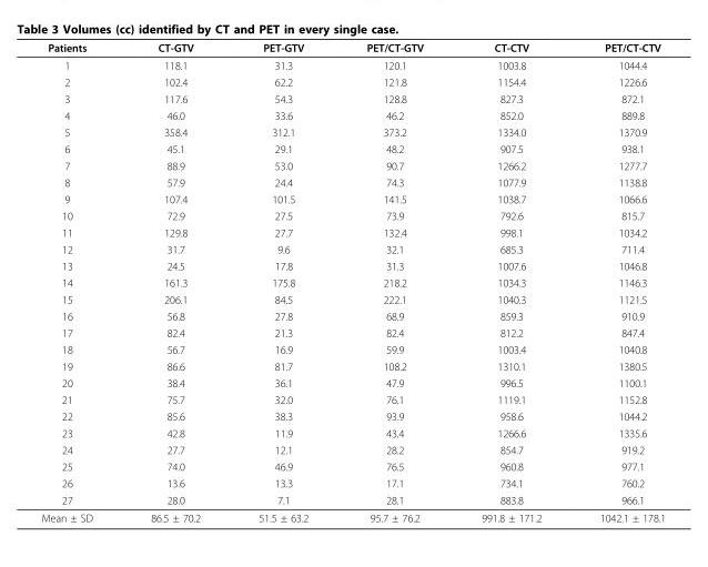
<table><thead><tr><td>Patients</td><td>CT-GTV</td><td>PET-GTV</td><td>PET/CT-GTV</td><td>CT-CTV</td><td>PET/CT-CTV</td></tr></thead><tbody><tr><td>1</td><td>118.1</td><td>31.3</td><td>120.1</td><td>1003.8</td><td>1044.4</td></tr><tr><td>2</td><td>102.4</td><td>62.2</td><td>121.8</td><td>1154.4</td><td>1226.6</td></tr><tr><td>3</td><td>117.6</td><td>54.3</td><td>128.8</td><td>827.3</td><td>872.1</td></tr><tr><td>4</td><td>46.0</td><td>33.6</td><td>46.2</td><td>852.0</td><td>889.8</td></tr><tr><td>5</td><td>358.4</td><td>312.1</td><td>373.2</td><td>1334.0</td><td>1370.9</td></tr><tr><td>6</td><td>45.1</td><td>29.1</td><td>48.2</td><td>907.5</td><td>938.1</td></tr><tr><td>7</td><td>88.9</td><td>53.0</td><td>90.7</td><td>1266.2</td><td>1277.7</td></tr><tr><td>8</td><td>57.9</td><td>24.4</td><td>74.3</td><td>1077.9</td><td>1138.8</td></tr><tr><td>9</td><td>107.4</td><td>101.5</td><td>141.5</td><td>1038.7</td><td>1066.6</td></tr><tr><td>10</td><td>72.9</td><td>27.5</td><td>73.9</td><td>792.6</td><td>815.7</td></tr><tr><td>11</td><td>129.8</td><td>27.7</td><td>132.4</td><td>998.1</td><td>1034.2</td></tr><tr><td>12</td><td>31.7</td><td>9.6</td><td>32.1</td><td>685.3</td><td>711.4</td></tr><tr><td>13</td><td>24.5</td><td>17.8</td><td>31.3</td><td>1007.6</td><td>1046.8</td></tr><tr><td>14</td><td>161.3</td><td>175.8</td><td>218.2</td><td>1034.3</td><td>1146.3</td></tr><tr><td>15</td><td>206.1</td><td>84.5</td><td>222.1</td><td>1040.3</td><td>1121.5</td></tr><tr><td>16</td><td>56.8</td><td>27.8</td><td>68.9</td><td>859.3</td><td>910.9</td></tr><tr><td>17</td><td>82.4</td><td>21.3</td><td>82.4</td><td>812.2</td><td>847.4</td></tr><tr><td>18</td><td>56.7</td><td>16.9</td><td>59.9</td><td>1003.4</td><td>1040.8</td></tr><tr><td>19</td><td>86.6</td><td>81.7</td><td>108.2</td><td>1310.1</td><td>1380.5</td></tr><tr><td>20</td><td>38.4</td><td>36.1</td><td>47.9</td><td>996.5</td><td>1100.1</td></tr><tr><td>21</td><td>75.7</td><td>32.0</td><td>76.1</td><td>1119.1</td><td>1152.8</td></tr><tr><td>22</td><td>85.6</td><td>38.3</td><td>93.9</td><td>958.6</td><td>1044.2</td></tr><tr><td>23</td><td>42.8</td><td>11.9</td><td>43.4</td><td>1266.6</td><td>1335.6</td></tr><tr><td>24</td><td>27.7</td><td>12.1</td><td>28.2</td><td>854.7</td><td>919.2</td></tr><tr><td>25</td><td>74.0</td><td>46.9</td><td>76.5</td><td>960.8</td><td>977.1</td></tr><tr><td>26</td><td>13.6</td><td>13.3</td><td>17.1</td><td>734.1</td><td>760.2</td></tr><tr><td>27</td><td>28.0</td><td>7.1</td><td>28.1</td><td>883.8</td><td>966.1</td></tr><tr><td>Mean ± SD</td><td>86.5 ± 70.2</td><td>51.5 ± 63.2</td><td>95.7 ± 76.2</td><td>991.8 ± 171.2</td><td>1042.1 ± 178.1</td></tr></tbody></table>